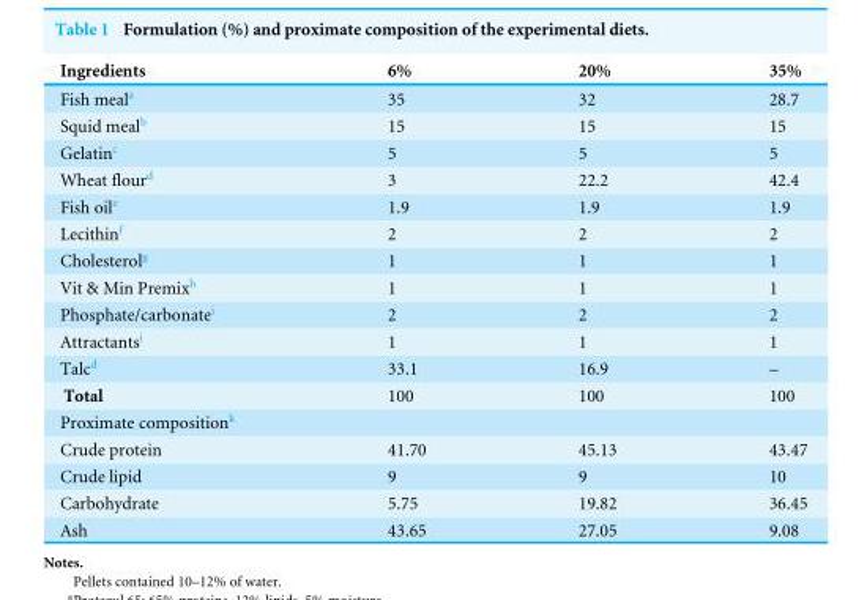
<table><thead><tr><td>Ingredients</td><td>6%</td><td>20%</td><td>35%</td></tr></thead><tbody><tr><td>Fish meal<sup>a</sup></td><td>35</td><td>32</td><td>28.7</td></tr><tr><td>Squid meal<sup>b</sup></td><td>15</td><td>15</td><td>15</td></tr><tr><td>Gelatin<sup>c</sup></td><td>5</td><td>5</td><td>5</td></tr><tr><td>Wheat flour<sup>d</sup></td><td>3</td><td>22.2</td><td>42.4</td></tr><tr><td>Fish oil<sup>e</sup></td><td>1.9</td><td>1.9</td><td>1.9</td></tr><tr><td>Lecithin<sup>f</sup></td><td>2</td><td>2</td><td>2</td></tr><tr><td>Cholesterol<sup>g</sup></td><td>1</td><td>1</td><td>1</td></tr><tr><td>Vit &amp; Min Premix<sup>h</sup></td><td>1</td><td>1</td><td>1</td></tr><tr><td>Phosphate/carbonate<sup>i</sup></td><td>2</td><td>2</td><td>2</td></tr><tr><td>Attractants<sup>j</sup></td><td>1</td><td>1</td><td>1</td></tr><tr><td>Talc<sup>d</sup></td><td>33.1</td><td>16.9</td><td>–</td></tr><tr><td>Total</td><td>100</td><td>100</td><td>100</td></tr><tr><td colspan="4">Proximate composition<sup>k</sup></td></tr><tr><td>Crude protein</td><td>41.70</td><td>45.13</td><td>43.47</td></tr><tr><td>Crude lipid</td><td>9</td><td>9</td><td>10</td></tr><tr><td>Carbohydrate</td><td>5.75</td><td>19.82</td><td>36.45</td></tr><tr><td>Ash</td><td>43.65</td><td>27.05</td><td>9.08</td></tr></tbody></table>